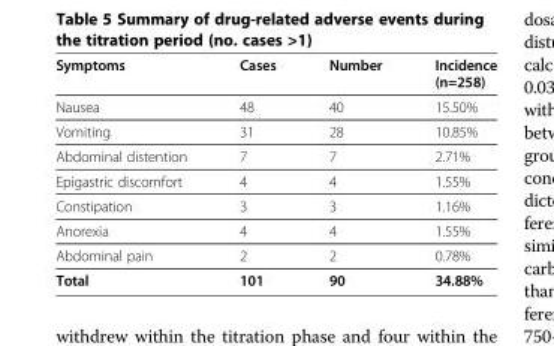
<table><thead><tr><td>Symptoms</td><td>Cases</td><td>Number</td><td>Incidence (n=258)</td></tr></thead><tbody><tr><td>Nausea</td><td>48</td><td>40</td><td>15.50%</td></tr><tr><td>Vomiting</td><td>31</td><td>28</td><td>10.85%</td></tr><tr><td>Abdominal distention</td><td>7</td><td>7</td><td>2.71%</td></tr><tr><td>Epigastric discomfort</td><td>4</td><td>4</td><td>1.55%</td></tr><tr><td>Constipation</td><td>3</td><td>3</td><td>1.16%</td></tr><tr><td>Anorexia</td><td>4</td><td>4</td><td>1.55%</td></tr><tr><td>Abdominal pain</td><td>2</td><td>2</td><td>0.78%</td></tr><tr><td>Total</td><td>101</td><td>90</td><td>34.88%</td></tr></tbody></table>